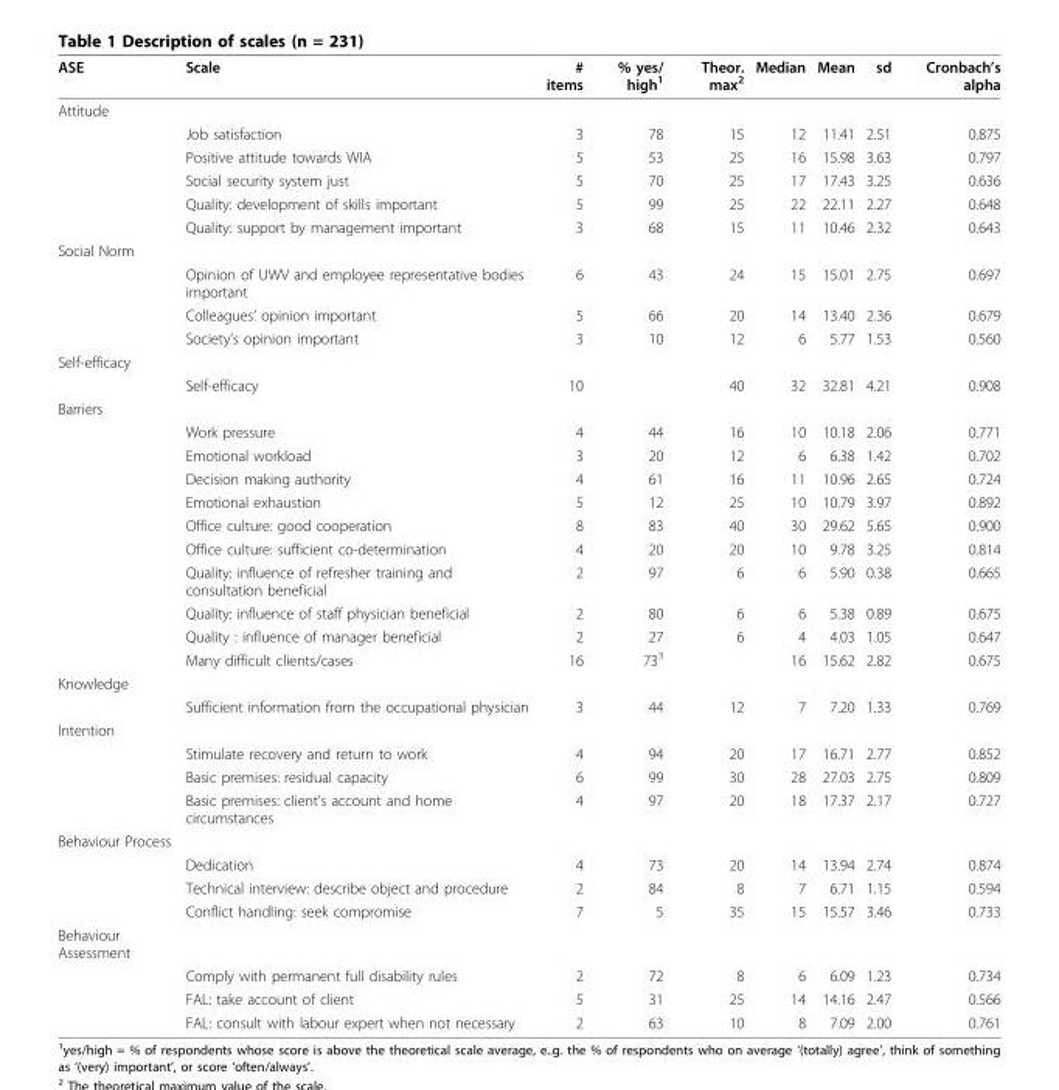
<table><thead><tr><td>ASE</td><td>Scale</td><td># items</td><td>% yes/ high<sup>1</sup></td><td>Theor. max<sup>2</sup></td><td>Median</td><td>Mean</td><td>sd</td><td>Cronbach’s alpha</td></tr></thead><tbody><tr><td colspan="9">Attitude</td></tr><tr><td></td><td>Job satisfaction</td><td>3</td><td>78</td><td>15</td><td>12</td><td>11.41</td><td>2.51</td><td>0.875</td></tr><tr><td></td><td>Positive attitude towards WIA</td><td>5</td><td>53</td><td>25</td><td>16</td><td>15.98</td><td>3.63</td><td>0.797</td></tr><tr><td></td><td>Social security system just</td><td>5</td><td>70</td><td>25</td><td>17</td><td>17.43</td><td>3.25</td><td>0.636</td></tr><tr><td></td><td>Quality: development of skills important</td><td>5</td><td>99</td><td>25</td><td>22</td><td>22.11</td><td>2.27</td><td>0.648</td></tr><tr><td></td><td>Quality: support by management important</td><td>3</td><td>68</td><td>15</td><td>11</td><td>10.46</td><td>2.32</td><td>0.643</td></tr><tr><td colspan="9">Social Norm</td></tr><tr><td></td><td>Opinion of UWV and employee representative bodies important</td><td>6</td><td>43</td><td>24</td><td>15</td><td>15.01</td><td>2.75</td><td>0.697</td></tr><tr><td></td><td>Colleagues’ opinion important</td><td>5</td><td>66</td><td>20</td><td>14</td><td>13.40</td><td>2.36</td><td>0.679</td></tr><tr><td></td><td>Society’s opinion important</td><td>3</td><td>10</td><td>12</td><td>6</td><td>5.77</td><td>1.53</td><td>0.560</td></tr><tr><td colspan="9">Self-efficacy</td></tr><tr><td></td><td>Self-efficacy</td><td>10</td><td></td><td>40</td><td>32</td><td>32.81</td><td>4.21</td><td>0.908</td></tr><tr><td colspan="9">Barriers</td></tr><tr><td></td><td>Work pressure</td><td>4</td><td>44</td><td>16</td><td>10</td><td>10.18</td><td>2.06</td><td>0.771</td></tr><tr><td></td><td>Emotional workload</td><td>3</td><td>20</td><td>12</td><td>6</td><td>6.38</td><td>1.42</td><td>0.702</td></tr><tr><td></td><td>Decision making authority</td><td>4</td><td>61</td><td>16</td><td>11</td><td>10.96</td><td>2.65</td><td>0.724</td></tr><tr><td></td><td>Emotional exhaustion</td><td>5</td><td>12</td><td>25</td><td>10</td><td>10.79</td><td>3.97</td><td>0.892</td></tr><tr><td></td><td>Office culture: good cooperation</td><td>8</td><td>83</td><td>40</td><td>30</td><td>29.62</td><td>5.65</td><td>0.900</td></tr><tr><td></td><td>Office culture: sufficient co-determination</td><td>4</td><td>20</td><td>20</td><td>10</td><td>9.78</td><td>3.25</td><td>0.814</td></tr><tr><td></td><td>Quality: influence of refresher training and consultation beneficial</td><td>2</td><td>97</td><td>6</td><td>6</td><td>5.90</td><td>0.38</td><td>0.665</td></tr><tr><td></td><td>Quality: influence of staff physician beneficial</td><td>2</td><td>80</td><td>6</td><td>6</td><td>5.38</td><td>0.89</td><td>0.675</td></tr><tr><td></td><td>Quality : influence of manager beneficial</td><td>2</td><td>27</td><td>6</td><td>4</td><td>4.03</td><td>1.05</td><td>0.647</td></tr><tr><td></td><td>Many difficult clients/cases</td><td>16</td><td>73<sup>3</sup></td><td></td><td>16</td><td>15.62</td><td>2.82</td><td>0.675</td></tr><tr><td colspan="9">Knowledge</td></tr><tr><td></td><td>Sufficient information from the occupational physician</td><td>3</td><td>44</td><td>12</td><td>7</td><td>7.20</td><td>1.33</td><td>0.769</td></tr><tr><td colspan="9">Intention</td></tr><tr><td></td><td>Stimulate recovery and return to work</td><td>4</td><td>94</td><td>20</td><td>17</td><td>16.71</td><td>2.77</td><td>0.852</td></tr><tr><td></td><td>Basic premises: residual capacity</td><td>6</td><td>99</td><td>30</td><td>28</td><td>27.03</td><td>2.75</td><td>0.809</td></tr><tr><td></td><td>Basic premises: client’s account and home circumstances</td><td>4</td><td>97</td><td>20</td><td>18</td><td>17.37</td><td>2.17</td><td>0.727</td></tr><tr><td colspan="9">Behaviour Process</td></tr><tr><td></td><td>Dedication</td><td>4</td><td>73</td><td>20</td><td>14</td><td>13.94</td><td>2.74</td><td>0.874</td></tr><tr><td></td><td>Technical interview: describe object and procedure</td><td>2</td><td>84</td><td>8</td><td>7</td><td>6.71</td><td>1.15</td><td>0.594</td></tr><tr><td></td><td>Conflict handling: seek compromise</td><td>7</td><td>5</td><td>35</td><td>15</td><td>15.57</td><td>3.46</td><td>0.733</td></tr><tr><td colspan="9">Behaviour Assessment</td></tr><tr><td></td><td>Comply with permanent full disability rules</td><td>2</td><td>72</td><td>8</td><td>6</td><td>6.09</td><td>1.23</td><td>0.734</td></tr><tr><td></td><td>FAL: take account of client</td><td>5</td><td>31</td><td>25</td><td>14</td><td>14.16</td><td>2.47</td><td>0.566</td></tr><tr><td></td><td>FAL: consult with labour expert when not necessary</td><td>2</td><td>63</td><td>10</td><td>8</td><td>7.09</td><td>2.00</td><td>0.761</td></tr></tbody></table>